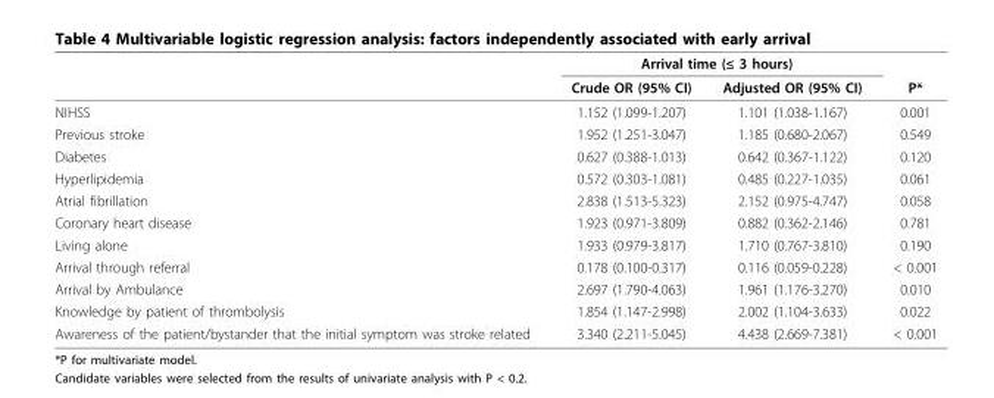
<table><thead><tr><td rowspan="2"></td><td colspan="2">Arrival time (≤ 3 hours)</td><td rowspan="2">P*</td></tr><tr><td>Crude OR (95% CI)</td><td>Adjusted OR (95% CI)</td></tr></thead><tbody><tr><td>NIHSS</td><td>1.152 (1.099-1.207)</td><td>1.101 (1.038-1.167)</td><td>0.001</td></tr><tr><td>Previous stroke</td><td>1.952 (1.251-3.047)</td><td>1.185 (0.680-2.067)</td><td>0.549</td></tr><tr><td>Diabetes</td><td>0.627 (0.388-1.013)</td><td>0.642 (0.367-1.122)</td><td>0.120</td></tr><tr><td>Hyperlipidemia</td><td>0.572 (0.303-1.081)</td><td>0.485 (0.227-1.035)</td><td>0.061</td></tr><tr><td>Atrial fibrillation</td><td>2.838 (1.513-5.323)</td><td>2.152 (0.975-4.747)</td><td>0.058</td></tr><tr><td>Coronary heart disease</td><td>1.923 (0.971-3.809)</td><td>0.882 (0.362-2.146)</td><td>0.781</td></tr><tr><td>Living alone</td><td>1.933 (0.979-3.817)</td><td>1.710 (0.767-3.810)</td><td>0.190</td></tr><tr><td>Arrival through referral</td><td>0.178 (0.100-0.317)</td><td>0.116 (0.059-0.228)</td><td>&lt; 0.001</td></tr><tr><td>Arrival by Ambulance</td><td>2.697 (1.790-4.063)</td><td>1.961 (1.176-3.270)</td><td>0.010</td></tr><tr><td>Knowledge by patient of thrombolysis</td><td>1.854 (1.147-2.998)</td><td>2.002 (1.104-3.633)</td><td>0.022</td></tr><tr><td>Awareness of the patient/bystander that the initial symptom was stroke related</td><td>3.340 (2.211-5.045)</td><td>4.438 (2.669-7.381)</td><td>&lt; 0.001</td></tr></tbody></table>